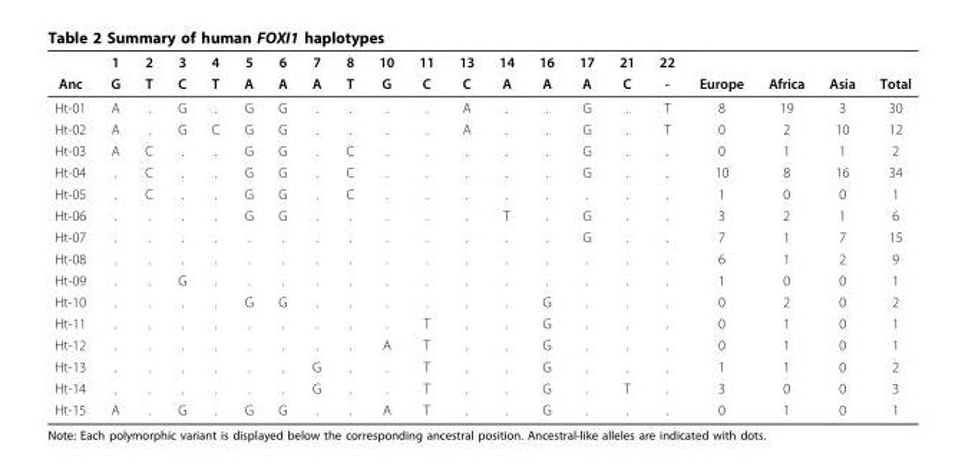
<table><thead><tr><td rowspan="2">Anc</td><td rowspan="2">1 G</td><td rowspan="2">2 T</td><td rowspan="2">3 C</td><td rowspan="2">4 T</td><td rowspan="2">5 A</td><td rowspan="2">6 A</td><td rowspan="2">7 A</td><td rowspan="2">8 T</td><td rowspan="2">10 G</td><td rowspan="2">11 C</td><td rowspan="2">13 C</td><td rowspan="2">14 A</td><td rowspan="2">16 A</td><td rowspan="2">17 A</td><td rowspan="2">21 C</td><td rowspan="2">22 -</td><td rowspan="2">Europe</td><td rowspan="2">Africa</td><td rowspan="2">Asia</td><td rowspan="2">Total</td></tr><tr></tr></thead><tbody><tr><td>Ht-01</td><td>A</td><td>.</td><td>G</td><td>.</td><td>G</td><td>G</td><td>.</td><td>.</td><td>.</td><td>.</td><td>A</td><td>.</td><td>.</td><td>G</td><td>.</td><td>T</td><td>8</td><td>19</td><td>3</td><td>30</td></tr><tr><td>Ht-02</td><td>A</td><td>.</td><td>G</td><td>C</td><td>G</td><td>G</td><td>.</td><td>.</td><td>.</td><td>.</td><td>A</td><td>.</td><td>.</td><td>G</td><td>.</td><td>T</td><td>0</td><td>2</td><td>10</td><td>12</td></tr><tr><td>Ht-03</td><td>A</td><td>C</td><td>.</td><td>.</td><td>G</td><td>G</td><td>.</td><td>C</td><td>.</td><td>.</td><td>.</td><td>.</td><td>.</td><td>G</td><td>.</td><td>.</td><td>0</td><td>1</td><td>1</td><td>2</td></tr><tr><td>Ht-04</td><td>.</td><td>C</td><td>.</td><td>.</td><td>G</td><td>G</td><td>.</td><td>C</td><td>.</td><td>.</td><td>.</td><td>.</td><td>.</td><td>G</td><td>.</td><td>.</td><td>10</td><td>8</td><td>16</td><td>34</td></tr><tr><td>Ht-05</td><td>.</td><td>C</td><td>.</td><td>.</td><td>G</td><td>G</td><td>.</td><td>C</td><td>.</td><td>.</td><td>.</td><td>.</td><td>.</td><td>.</td><td>.</td><td>.</td><td>1</td><td>0</td><td>0</td><td>1</td></tr><tr><td>Ht-06</td><td>.</td><td>.</td><td>.</td><td>.</td><td>G</td><td>G</td><td>.</td><td>.</td><td>.</td><td>.</td><td>.</td><td>T</td><td>.</td><td>G</td><td>.</td><td>.</td><td>3</td><td>2</td><td>1</td><td>6</td></tr><tr><td>Ht-07</td><td>.</td><td>.</td><td>.</td><td>.</td><td>.</td><td>.</td><td>.</td><td>.</td><td>.</td><td>.</td><td>.</td><td>.</td><td>.</td><td>G</td><td>.</td><td>.</td><td>7</td><td>1</td><td>7</td><td>15</td></tr><tr><td>Ht-08</td><td>.</td><td>.</td><td>.</td><td>.</td><td>.</td><td>.</td><td>.</td><td>.</td><td>.</td><td>.</td><td>.</td><td>.</td><td>.</td><td>.</td><td>.</td><td>.</td><td>6</td><td>1</td><td>2</td><td>9</td></tr><tr><td>Ht-09</td><td>.</td><td>.</td><td>G</td><td>.</td><td>.</td><td>.</td><td>.</td><td>.</td><td>.</td><td>.</td><td>.</td><td>.</td><td>.</td><td>.</td><td>.</td><td>.</td><td>1</td><td>0</td><td>0</td><td>1</td></tr><tr><td>Ht-10</td><td>.</td><td>.</td><td>.</td><td>.</td><td>G</td><td>G</td><td>.</td><td>.</td><td>.</td><td>.</td><td>.</td><td>.</td><td>G</td><td>.</td><td>.</td><td>.</td><td>0</td><td>2</td><td>0</td><td>2</td></tr><tr><td>Ht-11</td><td>.</td><td>.</td><td>.</td><td>.</td><td>.</td><td>.</td><td>.</td><td>.</td><td>.</td><td>T</td><td>.</td><td>.</td><td>G</td><td>.</td><td>.</td><td>.</td><td>0</td><td>1</td><td>0</td><td>1</td></tr><tr><td>Ht-12</td><td>.</td><td>.</td><td>.</td><td>.</td><td>.</td><td>.</td><td>.</td><td>.</td><td>A</td><td>T</td><td>.</td><td>.</td><td>G</td><td>.</td><td>.</td><td>.</td><td>0</td><td>1</td><td>0</td><td>1</td></tr><tr><td>Ht-13</td><td>.</td><td>.</td><td>.</td><td>.</td><td>.</td><td>.</td><td>G</td><td>.</td><td>.</td><td>T</td><td>.</td><td>.</td><td>G</td><td>.</td><td>.</td><td>.</td><td>1</td><td>1</td><td>0</td><td>2</td></tr><tr><td>Ht-14</td><td>.</td><td>.</td><td>.</td><td>.</td><td>.</td><td>.</td><td>G</td><td>.</td><td>.</td><td>T</td><td>.</td><td>.</td><td>G</td><td>.</td><td>T</td><td>.</td><td>3</td><td>0</td><td>0</td><td>3</td></tr><tr><td>Ht-15</td><td>A</td><td>.</td><td>G</td><td>.</td><td>G</td><td>G</td><td>.</td><td>.</td><td>A</td><td>T</td><td>.</td><td>.</td><td>G</td><td>.</td><td>.</td><td>.</td><td>0</td><td>1</td><td>0</td><td>1</td></tr></tbody></table>